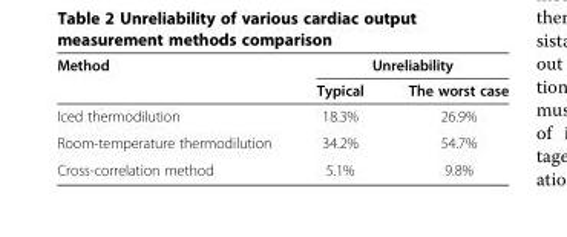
<table><thead><tr><td rowspan="2">Method</td><td colspan="2">Unreliability</td></tr><tr><td>Typical</td><td>The worst case</td></tr></thead><tbody><tr><td>Iced thermodilution</td><td>18.3%</td><td>26.9%</td></tr><tr><td>Room-temperature thermodilution</td><td>34.2%</td><td>54.7%</td></tr><tr><td>Cross-correlation method</td><td>5.1%</td><td>9.8%</td></tr></tbody></table>